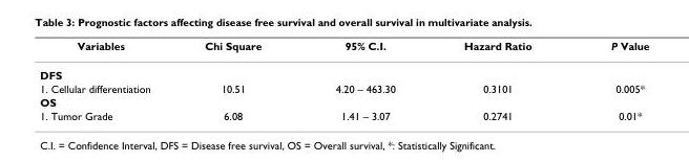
<table><thead><tr><td>Variables</td><td>Chi Square</td><td>95% C.I.</td><td>Hazard Ratio</td><td>P Value</td></tr></thead><tbody><tr><td colspan="5">DFS</td></tr><tr><td>1. Cellular differentiation</td><td>10.51</td><td>4.20 – 463.30</td><td>0.3101</td><td>0.005*</td></tr><tr><td colspan="5">OS</td></tr><tr><td>1. Tumor Grade</td><td>6.08</td><td>1.41 – 3.07</td><td>0.2741</td><td>0.01*</td></tr></tbody></table>